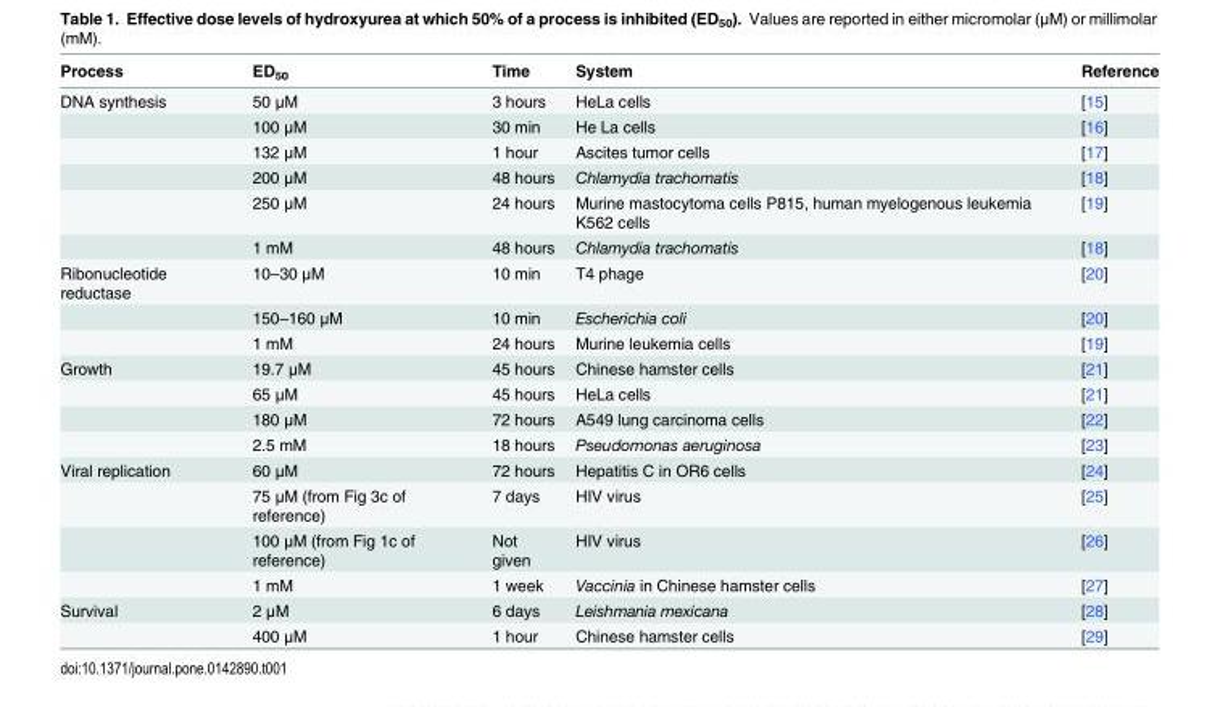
<table><thead><tr><td>Process</td><td>ED<sub>50</sub></td><td>Time</td><td>System</td><td>Reference</td></tr></thead><tbody><tr><td rowspan="6">DNA synthesis</td><td>50 μM</td><td>3 hours</td><td>HeLa cells</td><td>[15]</td></tr><tr><td>100 μM</td><td>30 min</td><td>He La cells</td><td>[16]</td></tr><tr><td>132 μM</td><td>1 hour</td><td>Ascites tumor cells</td><td>[17]</td></tr><tr><td>200 μM</td><td>48 hours</td><td>Chlamydia trachomatis</td><td>[18]</td></tr><tr><td>250 μM</td><td>24 hours</td><td>Murine mastocytoma cells P815, human myelogenous leukemia K562 cells</td><td>[19]</td></tr><tr><td>1 mM</td><td>48 hours</td><td>Chlamydia trachomatis</td><td>[18]</td></tr><tr><td rowspan="3">Ribonucleotide reductase</td><td>10–30 μM</td><td>10 min</td><td>T4 phage</td><td>[20]</td></tr><tr><td>150–160 μM</td><td>10 min</td><td>Escherichia coli</td><td>[20]</td></tr><tr><td>1 mM</td><td>24 hours</td><td>Murine leukemia cells</td><td>[19]</td></tr><tr><td rowspan="4">Growth</td><td>19.7 μM</td><td>45 hours</td><td>Chinese hamster cells</td><td>[21]</td></tr><tr><td>65 μM</td><td>45 hours</td><td>HeLa cells</td><td>[21]</td></tr><tr><td>180 μM</td><td>72 hours</td><td>A549 lung carcinoma cells</td><td>[22]</td></tr><tr><td>2.5 mM</td><td>18 hours</td><td>Pseudomonas aeruginosa</td><td>[23]</td></tr><tr><td rowspan="4">Viral replication</td><td>60 μM</td><td>72 hours</td><td>Hepatitis C in OR6 cells</td><td>[24]</td></tr><tr><td>75 μM (from Fig 3c of reference)</td><td>7 days</td><td>HIV virus</td><td>[25]</td></tr><tr><td>100 μM (from Fig 1c of reference)</td><td>Not given</td><td>HIV virus</td><td>[26]</td></tr><tr><td>1 mM</td><td>1 week</td><td>Vaccinia in Chinese hamster cells</td><td>[27]</td></tr><tr><td rowspan="2">Survival</td><td>2 μM</td><td>6 days</td><td>Leishmania mexicana</td><td>[28]</td></tr><tr><td>400 μM</td><td>1 hour</td><td>Chinese hamster cells</td><td>[29]</td></tr></tbody></table>